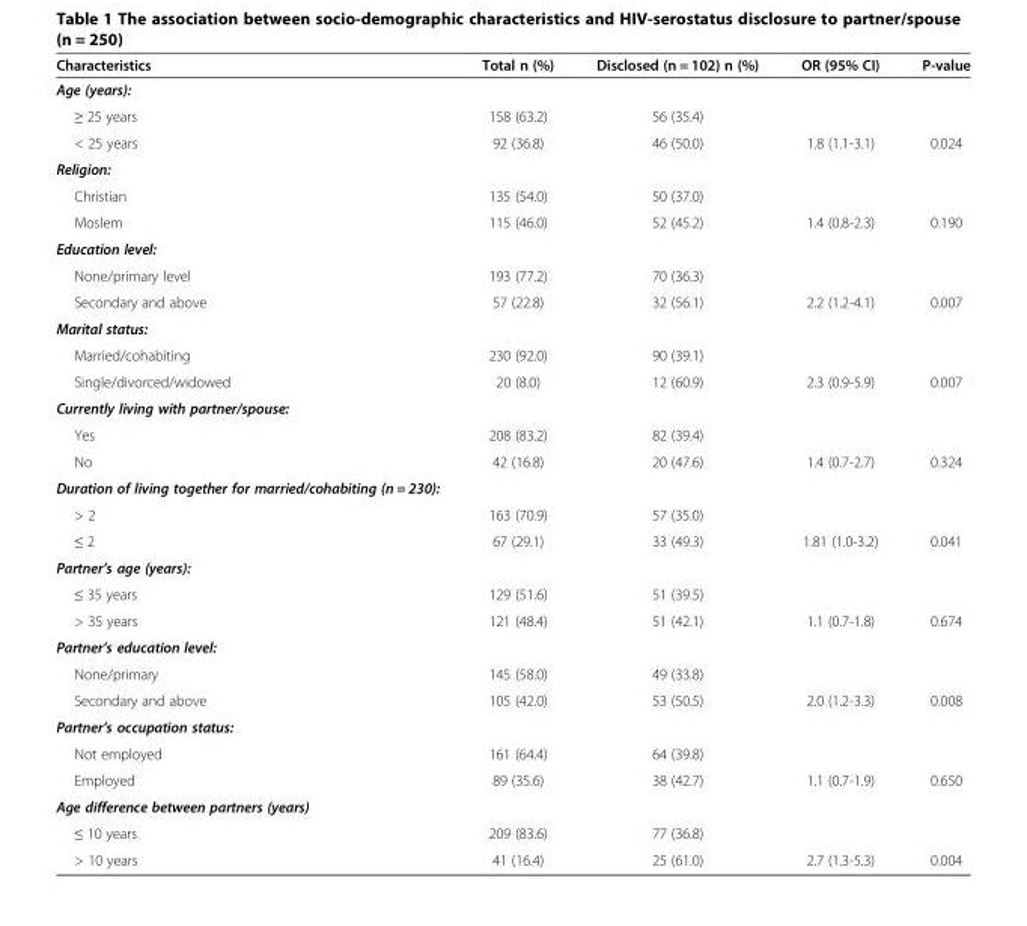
<table><thead><tr><td>Characteristics</td><td>Total n (%)</td><td>Disclosed (n = 102) n (%)</td><td>OR (95% CI)</td><td>P-value</td></tr></thead><tbody><tr><td colspan="5">Age (years):</td></tr><tr><td>≥ 25 years</td><td>158 (63.2)</td><td>56 (35.4)</td><td></td><td></td></tr><tr><td>&lt; 25 years</td><td>92 (36.8)</td><td>46 (50.0)</td><td>1.8 (1.1-3.1)</td><td>0.024</td></tr><tr><td colspan="5">Religion:</td></tr><tr><td>Christian</td><td>135 (54.0)</td><td>50 (37.0)</td><td></td><td></td></tr><tr><td>Moslem</td><td>115 (46.0)</td><td>52 (45.2)</td><td>1.4 (0.8-2.3)</td><td>0.190</td></tr><tr><td colspan="5">Education level:</td></tr><tr><td>None/primary level</td><td>193 (77.2)</td><td>70 (36.3)</td><td></td><td></td></tr><tr><td>Secondary and above</td><td>57 (22.8)</td><td>32 (56.1)</td><td>2.2 (1.2-4.1)</td><td>0.007</td></tr><tr><td colspan="5">Marital status:</td></tr><tr><td>Married/cohabiting</td><td>230 (92.0)</td><td>90 (39.1)</td><td></td><td></td></tr><tr><td>Single/divorced/widowed</td><td>20 (8.0)</td><td>12 (60.9)</td><td>2.3 (0.9-5.9)</td><td>0.007</td></tr><tr><td colspan="5">Currently living with partner/spouse:</td></tr><tr><td>Yes</td><td>208 (83.2)</td><td>82 (39.4)</td><td></td><td></td></tr><tr><td>No</td><td>42 (16.8)</td><td>20 (47.6)</td><td>1.4 (0.7-2.7)</td><td>0.324</td></tr><tr><td colspan="5">Duration of living together for married/cohabiting (n = 230):</td></tr><tr><td>&gt; 2</td><td>163 (70.9)</td><td>57 (35.0)</td><td></td><td></td></tr><tr><td>≤ 2</td><td>67 (29.1)</td><td>33 (49.3)</td><td>1.81 (1.0-3.2)</td><td>0.041</td></tr><tr><td colspan="5">Partner’s age (years):</td></tr><tr><td>≤ 35 years</td><td>129 (51.6)</td><td>51 (39.5)</td><td></td><td></td></tr><tr><td>&gt; 35 years</td><td>121 (48.4)</td><td>51 (42.1)</td><td>1.1 (0.7-1.8)</td><td>0.674</td></tr><tr><td colspan="5">Partner’s education level:</td></tr><tr><td>None/primary</td><td>145 (58.0)</td><td>49 (33.8)</td><td></td><td></td></tr><tr><td>Secondary and above</td><td>105 (42.0)</td><td>53 (50.5)</td><td>2.0 (1.2-3.3)</td><td>0.008</td></tr><tr><td colspan="5">Partner’s occupation status:</td></tr><tr><td>Not employed</td><td>161 (64.4)</td><td>64 (39.8)</td><td></td><td></td></tr><tr><td>Employed</td><td>89 (35.6)</td><td>38 (42.7)</td><td>1.1 (0.7-1.9)</td><td>0.650</td></tr><tr><td colspan="5">Age difference between partners (years)</td></tr><tr><td>≤ 10 years</td><td>209 (83.6)</td><td>77 (36.8)</td><td></td><td></td></tr><tr><td>&gt; 10 years</td><td>41 (16.4)</td><td>25 (61.0)</td><td>2.7 (1.3-5.3)</td><td>0.004</td></tr></tbody></table>